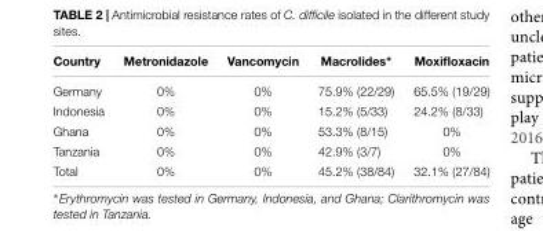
<table><thead><tr><td>Country</td><td>Metronidazole</td><td>Vancomycin</td><td>Macrolides∗</td><td>Moxifloxacin</td></tr></thead><tbody><tr><td>Germany</td><td>0%</td><td>0%</td><td>75.9% (22/29)</td><td>65.5% (19/29)</td></tr><tr><td>Indonesia</td><td>0%</td><td>0%</td><td>15.2% (5/33)</td><td>24.2% (8/33)</td></tr><tr><td>Ghana</td><td>0%</td><td>0%</td><td>53.3% (8/15)</td><td>0%</td></tr><tr><td>Tanzania</td><td>0%</td><td>0%</td><td>42.9% (3/7)</td><td>0%</td></tr><tr><td>Total</td><td>0%</td><td>0%</td><td>45.2% (38/84)</td><td>32.1% (27/84)</td></tr></tbody></table>